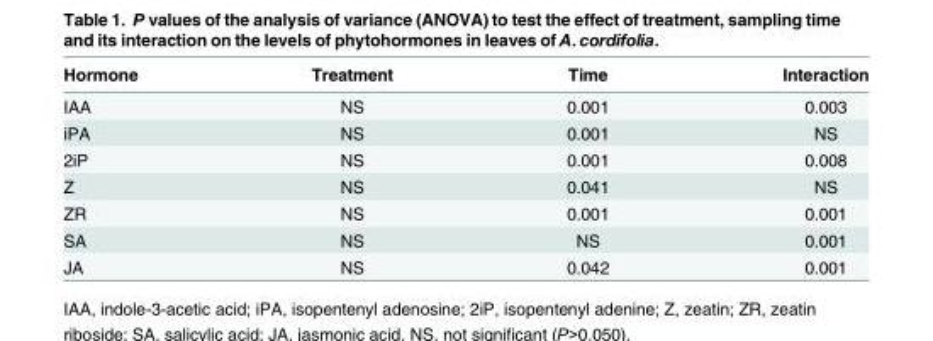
<table><thead><tr><td>Hormone</td><td>Treatment</td><td>Time</td><td>Interaction</td></tr></thead><tbody><tr><td>IAA</td><td>NS</td><td>0.001</td><td>0.003</td></tr><tr><td>iPA</td><td>NS</td><td>0.001</td><td>NS</td></tr><tr><td>2iP</td><td>NS</td><td>0.001</td><td>0.008</td></tr><tr><td>Z</td><td>NS</td><td>0.041</td><td>NS</td></tr><tr><td>ZR</td><td>NS</td><td>0.001</td><td>0.001</td></tr><tr><td>SA</td><td>NS</td><td>NS</td><td>0.001</td></tr><tr><td>JA</td><td>NS</td><td>0.042</td><td>0.001</td></tr></tbody></table>